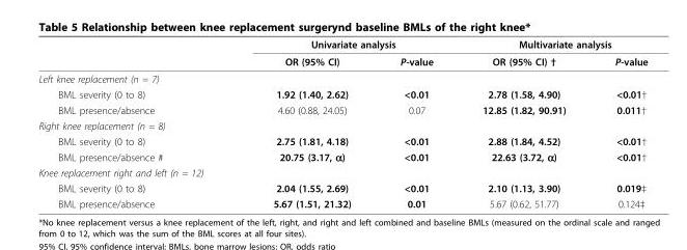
<table><thead><tr><td rowspan="2"></td><td colspan="2">Univariate analysis</td><td colspan="2">Multivariate analysis</td></tr><tr><td>OR (95% CI)</td><td>P-value</td><td>OR (95% CI) †</td><td>P-value</td></tr></thead><tbody><tr><td colspan="5">Left knee replacement (n = 7)</td></tr><tr><td>BML severity (0 to 8)</td><td>1.92 (1.40, 2.62)</td><td>&lt;0.01</td><td>2.78 (1.58, 4.90)</td><td>&lt;0.01†</td></tr><tr><td>BML presence/absence</td><td>4.60 (0.88, 24.05)</td><td>0.07</td><td>12.85 (1.82, 90.91)</td><td>0.011†</td></tr><tr><td colspan="5">Right knee replacement (n = 8)</td></tr><tr><td>BML severity (0 to 8)</td><td>2.75 (1.81, 4.18)</td><td>&lt;0.01</td><td>2.88 (1.84, 4.52)</td><td>&lt;0.01†</td></tr><tr><td>BML presence/absence #</td><td>20.75 (3.17, α)</td><td>&lt;0.01</td><td>22.63 (3.72, α)</td><td>&lt;0.01†</td></tr><tr><td colspan="5">Knee replacement right and left (n = 12)</td></tr><tr><td>BML severity (0 to 8)</td><td>2.04 (1.55, 2.69)</td><td>&lt;0.01</td><td>2.10 (1.13, 3.90)</td><td>0.019‡</td></tr><tr><td>BML presence/absence</td><td>5.67 (1.51, 21.32)</td><td>0.01</td><td>5.67 (0.62, 51.77)</td><td>0.124‡</td></tr></tbody></table>